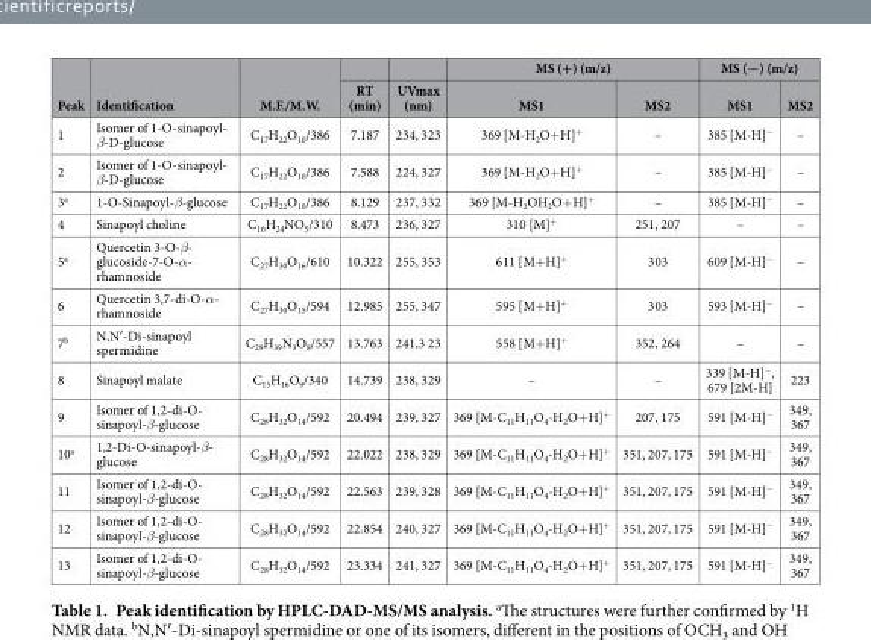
<table><thead><tr><td rowspan="2">Peak</td><td rowspan="2">Identification</td><td rowspan="2">M.F./M.W.</td><td rowspan="2">RT (min)</td><td rowspan="2">UVmax (nm)</td><td colspan="2">MS (+) (m/z)</td><td colspan="2">MS (−) (m/z)</td></tr><tr><td>MS1</td><td>MS2</td><td>MS1</td><td>MS2</td></tr></thead><tbody><tr><td>1</td><td>Isomer of 1-O-sinapoyl- β-D-glucose</td><td>C<sub>17</sub>H<sub>22</sub>O<sub>10</sub>/386</td><td>7.187</td><td>234, 323</td><td>369 [M-H<sub>2</sub>O+ H]<sup>+</sup></td><td>–</td><td>385 [M-H]<sup>−</sup></td><td>–</td></tr><tr><td>2</td><td>Isomer of 1-O-sinapoyl- β-D-glucose</td><td>C<sub>17</sub>H<sub>22</sub>O<sub>10</sub>/386</td><td>7.588</td><td>224, 327</td><td>369 [M-H<sub>2</sub>O+ H]<sup>+</sup></td><td>–</td><td>385 [M-H]<sup>−</sup></td><td>–</td></tr><tr><td>3<sup>a</sup></td><td>1-O-Sinapoyl-β-glucose</td><td>C<sub>17</sub>H<sub>22</sub>O<sub>10</sub>/386</td><td>8.129</td><td>237, 332</td><td>369 [M-H<sub>2</sub>OH<sub>2</sub>O+ H]<sup>+</sup></td><td>–</td><td>385 [M-H]<sup>−</sup></td><td>–</td></tr><tr><td>4</td><td>Sinapoyl choline</td><td>C<sub>16</sub>H<sub>24</sub>NO<sub>5</sub>/310</td><td>8.473</td><td>236, 327</td><td>310 [M]<sup>+</sup></td><td>251, 207</td><td>–</td><td>–</td></tr><tr><td>5<sup>a</sup></td><td>Quercetin 3-O-β- glucoside-7-O-α- rhamnoside</td><td>C<sub>27</sub>H<sub>30</sub>O<sub>16</sub>/610</td><td>10.322</td><td>255, 353</td><td>611 [M+ H]<sup>+</sup></td><td>303</td><td>609 [M-H]<sup>−</sup></td><td>–</td></tr><tr><td>6</td><td>Quercetin 3,7-di-O-α- rhamnoside</td><td>C<sub>27</sub>H<sub>30</sub>O<sub>15</sub>/594</td><td>12.985</td><td>255, 347</td><td>595 [M+ H]<sup>+</sup></td><td>303</td><td>593 [M-H]<sup>−</sup></td><td>–</td></tr><tr><td>7<sup>b</sup></td><td>N,N′ -Di-sinapoyl spermidine</td><td>C<sub>29</sub>H<sub>39</sub>N<sub>3</sub>O<sub>8</sub>/557</td><td>13.763</td><td>241,3 23</td><td>558 [M+ H]<sup>+</sup></td><td>352, 264</td><td>–</td><td>–</td></tr><tr><td>8</td><td>Sinapoyl malate</td><td>C<sub>15</sub>H<sub>16</sub>O<sub>9</sub>/340</td><td>14.739</td><td>238, 329</td><td>–</td><td>–</td><td>339 [M-H]<sup>−</sup>, 679 [2M-H]</td><td>223</td></tr><tr><td>9</td><td>Isomer of 1,2-di-O- sinapoyl-β-glucose</td><td>C<sub>28</sub>H<sub>32</sub>O<sub>14</sub>/592</td><td>20.494</td><td>239, 327</td><td>369 [M-C<sub>11</sub>H<sub>11</sub>O<sub>4</sub>-H<sub>2</sub>O+ H]<sup>+</sup></td><td>207, 175</td><td>591 [M-H]<sup>−</sup></td><td>349, 367</td></tr><tr><td>10<sup>a</sup></td><td>1,2-Di-O-sinapoyl-β- glucose</td><td>C<sub>28</sub>H<sub>32</sub>O<sub>14</sub>/592</td><td>22.022</td><td>238, 329</td><td>369 [M-C<sub>11</sub>H<sub>11</sub>O<sub>4</sub>-H<sub>2</sub>O+ H]<sup>+</sup></td><td>351, 207, 175</td><td>591 [M-H]<sup>−</sup></td><td>349, 367</td></tr><tr><td>11</td><td>Isomer of 1,2-di-O- sinapoyl-β-glucose</td><td>C<sub>28</sub>H<sub>32</sub>O<sub>14</sub>/592</td><td>22.563</td><td>239, 328</td><td>369 [M-C<sub>11</sub>H<sub>11</sub>O<sub>4</sub>-H<sub>2</sub>O+ H]<sup>+</sup></td><td>351, 207, 175</td><td>591 [M-H]<sup>−</sup></td><td>349, 367</td></tr><tr><td>12</td><td>Isomer of 1,2-di-O- sinapoyl-β-glucose</td><td>C<sub>28</sub>H<sub>32</sub>O<sub>14</sub>/592</td><td>22.854</td><td>240, 327</td><td>369 [M-C<sub>11</sub>H<sub>11</sub>O<sub>4</sub>-H<sub>2</sub>O+ H]<sup>+</sup></td><td>351, 207, 175</td><td>591 [M-H]<sup>−</sup></td><td>349, 367</td></tr><tr><td>13</td><td>Isomer of 1,2-di-O- sinapoyl-β-glucose</td><td>C<sub>28</sub>H<sub>32</sub>O<sub>14</sub>/592</td><td>23.334</td><td>241, 327</td><td>369 [M-C<sub>11</sub>H<sub>11</sub>O<sub>4</sub>-H<sub>2</sub>O+ H]<sup>+</sup></td><td>351, 207, 175</td><td>591 [M-H]<sup>−</sup></td><td>349, 367</td></tr></tbody></table>